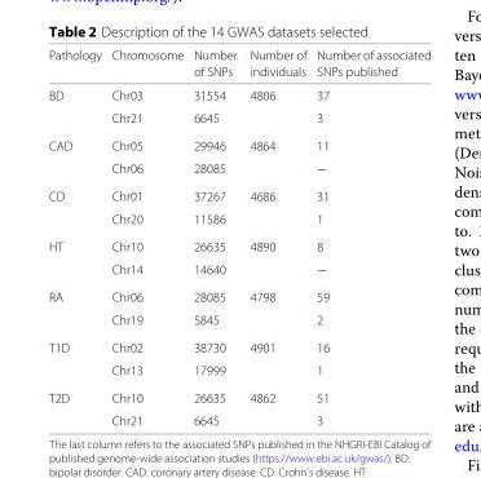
<table><thead><tr><td rowspan="2">Pathology</td><td rowspan="2">Chromosome</td><td rowspan="2">Number of SNPs</td><td rowspan="2">Number of individuals</td><td rowspan="2">Number of associated SNPs published</td></tr><tr></tr></thead><tbody><tr><td rowspan="2">BD</td><td>Chr03</td><td>31554</td><td>4806</td><td>37</td></tr><tr><td>Chr21</td><td>6645</td><td></td><td>3</td></tr><tr><td rowspan="2">CAD</td><td>Chr05</td><td>29946</td><td>4864</td><td>11</td></tr><tr><td>Chr06</td><td>28085</td><td></td><td>−</td></tr><tr><td rowspan="2">CD</td><td>Chr01</td><td>37267</td><td>4686</td><td>31</td></tr><tr><td>Chr20</td><td>11586</td><td></td><td>1</td></tr><tr><td rowspan="2">HT</td><td>Chr10</td><td>26635</td><td>4890</td><td>8</td></tr><tr><td>Chr14</td><td>14640</td><td></td><td>−</td></tr><tr><td rowspan="2">RA</td><td>Chr06</td><td>28085</td><td>4798</td><td>59</td></tr><tr><td>Chr19</td><td>5845</td><td></td><td>2</td></tr><tr><td rowspan="2">T1D</td><td>Chr02</td><td>38730</td><td>4901</td><td>16</td></tr><tr><td>Chr13</td><td>17999</td><td></td><td>1</td></tr><tr><td rowspan="2">T2D</td><td>Chr10</td><td>26635</td><td>4862</td><td>51</td></tr><tr><td>Chr21</td><td>6645</td><td></td><td>3</td></tr></tbody></table>